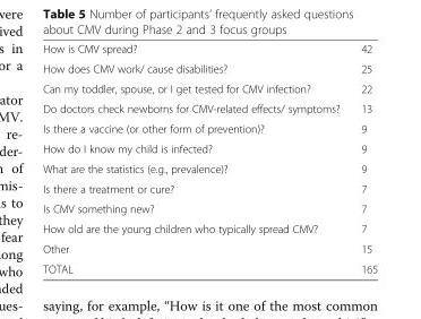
<table><tbody><tr><td>How is CMV spread?</td><td>42</td></tr><tr><td>How does CMV work/ cause disabilities?</td><td>25</td></tr><tr><td>Can my toddler, spouse, or I get tested for CMV infection?</td><td>22</td></tr><tr><td>Do doctors check newborns for CMV-related effects/ symptoms?</td><td>13</td></tr><tr><td>Is there a vaccine (or other form of prevention)?</td><td>9</td></tr><tr><td>How do I know my child is infected?</td><td>9</td></tr><tr><td>What are the statistics (e.g., prevalence)?</td><td>9</td></tr><tr><td>Is there a treatment or cure?</td><td>7</td></tr><tr><td>Is CMV something new?</td><td>7</td></tr><tr><td>How old are the young children who typically spread CMV?</td><td>7</td></tr><tr><td>Other</td><td>15</td></tr><tr><td>TOTAL</td><td>165</td></tr></tbody></table>